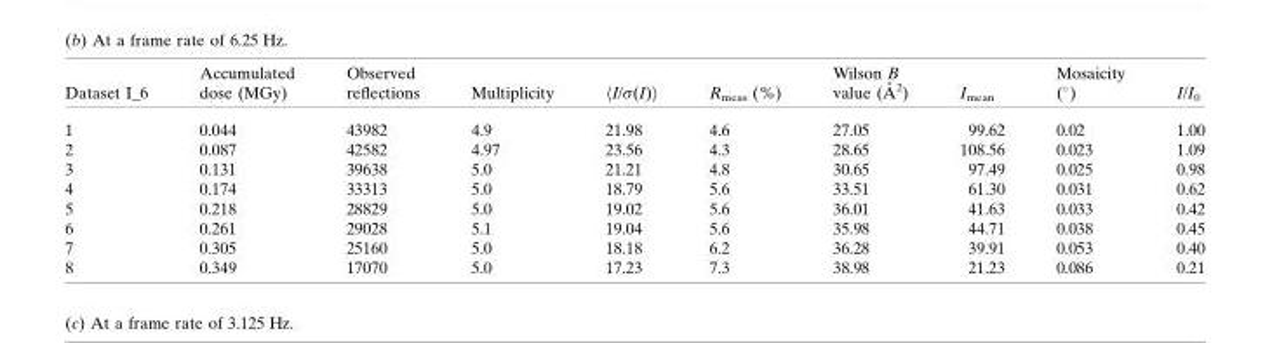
<table><thead><tr><td>Dataset I_6</td><td>Accumulated dose (MGy)</td><td>Observed reflections</td><td>Multiplicity</td><td>〈I/σ(I)〉</td><td>R<sub>meas</sub> (%)</td><td>Wilson B value (A˚ 2)</td><td>I<sub>mean</sub></td><td>Mosaicity (°)</td><td>I/I<sub>0</sub></td></tr></thead><tbody><tr><td>1</td><td>0.044</td><td>43982</td><td>4.9</td><td>21.98</td><td>4.6</td><td>27.05</td><td>99.62</td><td>0.02</td><td>1.00</td></tr><tr><td>2</td><td>0.087</td><td>42582</td><td>4.97</td><td>23.56</td><td>4.3</td><td>28.65</td><td>108.56</td><td>0.023</td><td>1.09</td></tr><tr><td>3</td><td>0.131</td><td>39638</td><td>5.0</td><td>21.21</td><td>4.8</td><td>30.65</td><td>97.49</td><td>0.025</td><td>0.98</td></tr><tr><td>4</td><td>0.174</td><td>33313</td><td>5.0</td><td>18.79</td><td>5.6</td><td>33.51</td><td>61.30</td><td>0.031</td><td>0.62</td></tr><tr><td>5</td><td>0.218</td><td>28829</td><td>5.0</td><td>19.02</td><td>5.6</td><td>36.01</td><td>41.63</td><td>0.033</td><td>0.42</td></tr><tr><td>6</td><td>0.261</td><td>29028</td><td>5.1</td><td>19.04</td><td>5.6</td><td>35.98</td><td>44.71</td><td>0.038</td><td>0.45</td></tr><tr><td>7</td><td>0.305</td><td>25160</td><td>5.0</td><td>18.18</td><td>6.2</td><td>36.28</td><td>39.91</td><td>0.053</td><td>0.40</td></tr><tr><td>8</td><td>0.349</td><td>17070</td><td>5.0</td><td>17.23</td><td>7.3</td><td>38.98</td><td>21.23</td><td>0.086</td><td>0.21</td></tr></tbody></table>